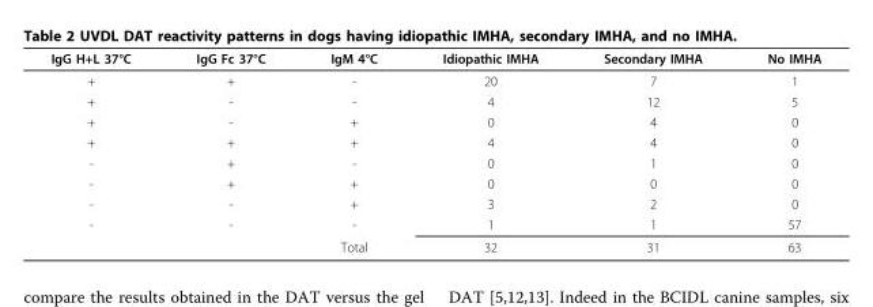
<table><thead><tr><td>IgG H+L 37°C</td><td>IgG Fc 37°C</td><td>IgM 4°C</td><td>Idiopathic IMHA</td><td>Secondary IMHA</td><td>No IMHA</td></tr></thead><tbody><tr><td>+</td><td>+</td><td>-</td><td>20</td><td>7</td><td>1</td></tr><tr><td>+</td><td>-</td><td>-</td><td>4</td><td>12</td><td>5</td></tr><tr><td>+</td><td>-</td><td>+</td><td>0</td><td>4</td><td>0</td></tr><tr><td>+</td><td>+</td><td>+</td><td>4</td><td>4</td><td>0</td></tr><tr><td>-</td><td>+</td><td>-</td><td>0</td><td>1</td><td>0</td></tr><tr><td>-</td><td>+</td><td>+</td><td>0</td><td>0</td><td>0</td></tr><tr><td>-</td><td>-</td><td>+</td><td>3</td><td>2</td><td>0</td></tr><tr><td rowspan="2">-</td><td>-</td><td>-</td><td>1</td><td>1</td><td>57</td></tr><tr><td></td><td>Total</td><td>32</td><td>31</td><td>63</td></tr></tbody></table>